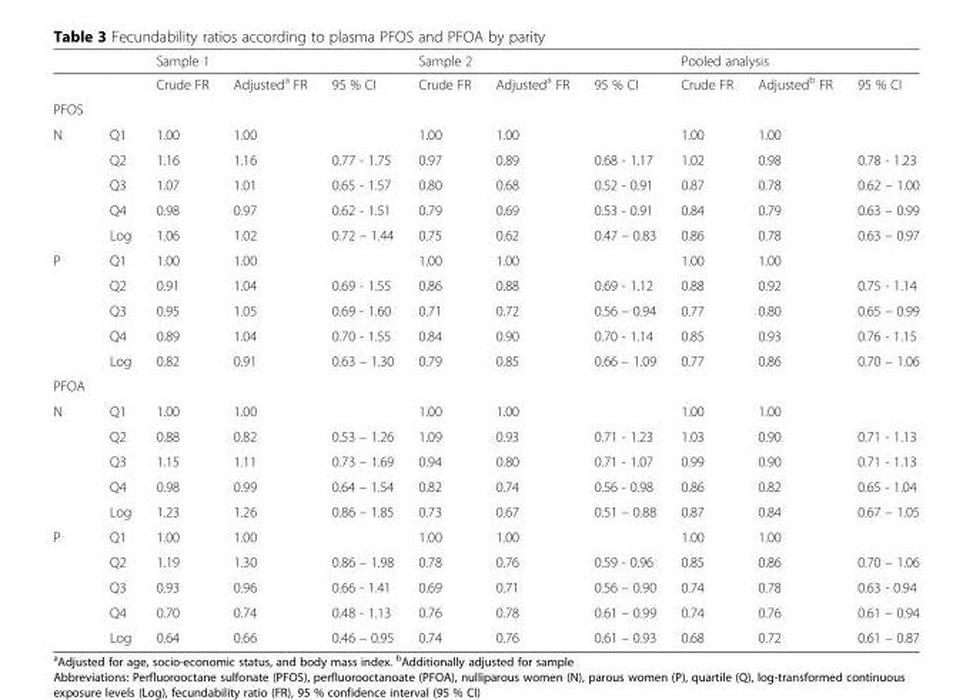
<table><thead><tr><td rowspan="2"></td><td rowspan="2"></td><td colspan="3">Sample 1</td><td colspan="3">Sample 2</td><td colspan="2">Pooled analysis</td><td rowspan="2">95 % CI</td></tr><tr><td>Crude FR</td><td>Adjusted<sup>a</sup> FR</td><td>95 % CI</td><td>Crude FR</td><td>Adjusted<sup>a</sup> FR</td><td>95 % CI</td><td>Crude FR</td><td>Adjusted<sup>b</sup> FR</td></tr></thead><tbody><tr><td colspan="11">PFOS</td></tr><tr><td rowspan="5">N</td><td>Q1</td><td>1.00</td><td>1.00</td><td></td><td>1.00</td><td>1.00</td><td></td><td>1.00</td><td>1.00</td><td></td></tr><tr><td>Q2</td><td>1.16</td><td>1.16</td><td>0.77 - 1.75</td><td>0.97</td><td>0.89</td><td>0.68 - 1.17</td><td>1.02</td><td>0.98</td><td>0.78 - 1.23</td></tr><tr><td>Q3</td><td>1.07</td><td>1.01</td><td>0.65 - 1.57</td><td>0.80</td><td>0.68</td><td>0.52 - 0.91</td><td>0.87</td><td>0.78</td><td>0.62 – 1.00</td></tr><tr><td>Q4</td><td>0.98</td><td>0.97</td><td>0.62 - 1.51</td><td>0.79</td><td>0.69</td><td>0.53 - 0.91</td><td>0.84</td><td>0.79</td><td>0.63 – 0.99</td></tr><tr><td>Log</td><td>1.06</td><td>1.02</td><td>0.72 – 1.44</td><td>0.75</td><td>0.62</td><td>0.47 – 0.83</td><td>0.86</td><td>0.78</td><td>0.63 – 0.97</td></tr><tr><td rowspan="5">P</td><td>Q1</td><td>1.00</td><td>1.00</td><td></td><td>1.00</td><td>1.00</td><td></td><td>1.00</td><td>1.00</td><td></td></tr><tr><td>Q2</td><td>0.91</td><td>1.04</td><td>0.69 - 1.55</td><td>0.86</td><td>0.88</td><td>0.69 - 1.12</td><td>0.88</td><td>0.92</td><td>0.75 - 1.14</td></tr><tr><td>Q3</td><td>0.95</td><td>1.05</td><td>0.69 - 1.60</td><td>0.71</td><td>0.72</td><td>0.56 – 0.94</td><td>0.77</td><td>0.80</td><td>0.65 – 0.99</td></tr><tr><td>Q4</td><td>0.89</td><td>1.04</td><td>0.70 - 1.55</td><td>0.84</td><td>0.90</td><td>0.70 - 1.14</td><td>0.85</td><td>0.93</td><td>0.76 - 1.15</td></tr><tr><td>Log</td><td>0.82</td><td>0.91</td><td>0.63 – 1.30</td><td>0.79</td><td>0.85</td><td>0.66 – 1.09</td><td>0.77</td><td>0.86</td><td>0.70 – 1.06</td></tr><tr><td colspan="11">PFOA</td></tr><tr><td rowspan="5">N</td><td>Q1</td><td>1.00</td><td>1.00</td><td></td><td>1.00</td><td>1.00</td><td></td><td>1.00</td><td>1.00</td><td></td></tr><tr><td>Q2</td><td>0.88</td><td>0.82</td><td>0.53 – 1.26</td><td>1.09</td><td>0.93</td><td>0.71 - 1.23</td><td>1.03</td><td>0.90</td><td>0.71 - 1.13</td></tr><tr><td>Q3</td><td>1.15</td><td>1.11</td><td>0.73 – 1.69</td><td>0.94</td><td>0.80</td><td>0.71 - 1.07</td><td>0.99</td><td>0.90</td><td>0.71 - 1.13</td></tr><tr><td>Q4</td><td>0.98</td><td>0.99</td><td>0.64 – 1.54</td><td>0.82</td><td>0.74</td><td>0.56 - 0.98</td><td>0.86</td><td>0.82</td><td>0.65 - 1.04</td></tr><tr><td>Log</td><td>1.23</td><td>1.26</td><td>0.86 – 1.85</td><td>0.73</td><td>0.67</td><td>0.51 – 0.88</td><td>0.87</td><td>0.84</td><td>0.67 – 1.05</td></tr><tr><td rowspan="5">P</td><td>Q1</td><td>1.00</td><td>1.00</td><td></td><td>1.00</td><td>1.00</td><td></td><td>1.00</td><td>1.00</td><td></td></tr><tr><td>Q2</td><td>1.19</td><td>1.30</td><td>0.86 – 1.98</td><td>0.78</td><td>0.76</td><td>0.59 - 0.96</td><td>0.85</td><td>0.86</td><td>0.70 – 1.06</td></tr><tr><td>Q3</td><td>0.93</td><td>0.96</td><td>0.66 - 1.41</td><td>0.69</td><td>0.71</td><td>0.56 – 0.90</td><td>0.74</td><td>0.78</td><td>0.63 - 0.94</td></tr><tr><td>Q4</td><td>0.70</td><td>0.74</td><td>0.48 - 1.13</td><td>0.76</td><td>0.78</td><td>0.61 – 0.99</td><td>0.74</td><td>0.76</td><td>0.61 – 0.94</td></tr><tr><td>Log</td><td>0.64</td><td>0.66</td><td>0.46 – 0.95</td><td>0.74</td><td>0.76</td><td>0.61 – 0.93</td><td>0.68</td><td>0.72</td><td>0.61 – 0.87</td></tr></tbody></table>